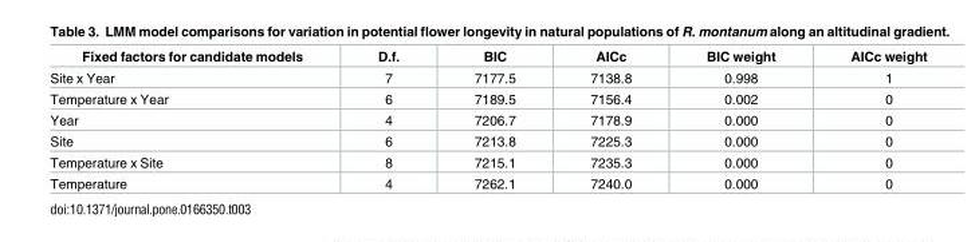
<table><thead><tr><td>Fixed factors for candidate models</td><td>D.f.</td><td>BIC</td><td>AICc</td><td>BIC weight</td><td>AICc weight</td></tr></thead><tbody><tr><td>Site x Year</td><td>7</td><td>7177.5</td><td>7138.8</td><td>0.998</td><td>1</td></tr><tr><td>Temperature x Year</td><td>6</td><td>7189.5</td><td>7156.4</td><td>0.002</td><td>0</td></tr><tr><td>Year</td><td>4</td><td>7206.7</td><td>7178.9</td><td>0.000</td><td>0</td></tr><tr><td>Site</td><td>6</td><td>7213.8</td><td>7225.3</td><td>0.000</td><td>0</td></tr><tr><td>Temperature x Site</td><td>8</td><td>7215.1</td><td>7235.3</td><td>0.000</td><td>0</td></tr><tr><td>Temperature</td><td>4</td><td>7262.1</td><td>7240.0</td><td>0.000</td><td>0</td></tr></tbody></table>